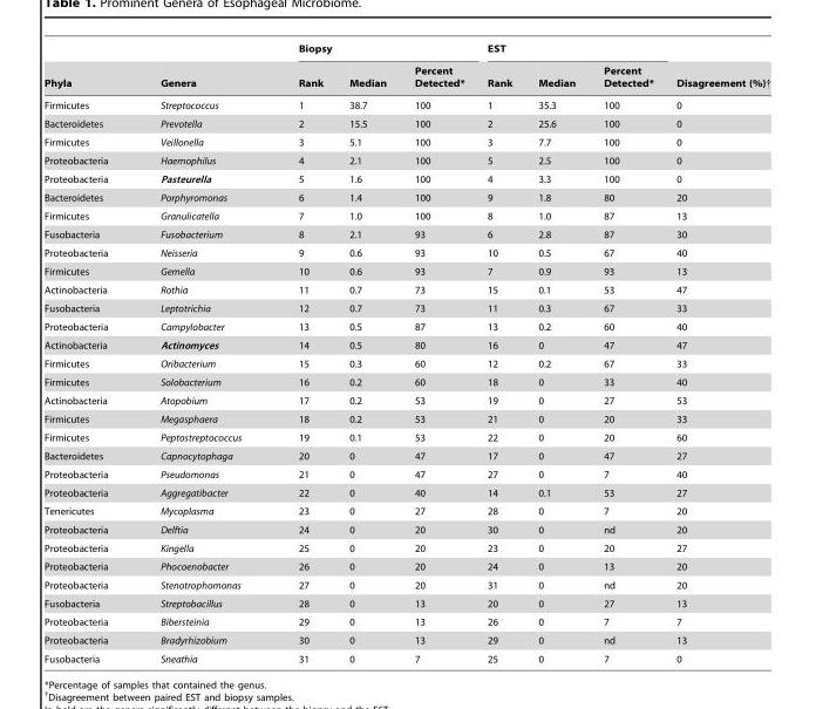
<table><thead><tr><td rowspan="2">Phyla</td><td rowspan="2">Genera</td><td colspan="3">Biopsy</td><td colspan="3">EST</td><td rowspan="2">Disagreement (%)†</td></tr><tr><td>Rank</td><td>Median</td><td>Percent Detected*</td><td>Rank</td><td>Median</td><td>Percent Detected*</td></tr></thead><tbody><tr><td>Firmicutes</td><td>Streptococcus</td><td>1</td><td>38.7</td><td>100</td><td>1</td><td>35.3</td><td>100</td><td>0</td></tr><tr><td>Bacteroidetes</td><td>Prevotella</td><td>2</td><td>15.5</td><td>100</td><td>2</td><td>25.6</td><td>100</td><td>0</td></tr><tr><td>Firmicutes</td><td>Veillonella</td><td>3</td><td>5.1</td><td>100</td><td>3</td><td>7.7</td><td>100</td><td>0</td></tr><tr><td>Proteobacteria</td><td>Haemophilus</td><td>4</td><td>2.1</td><td>100</td><td>5</td><td>2.5</td><td>100</td><td>0</td></tr><tr><td>Proteobacteria</td><td>Pasteurella</td><td>5</td><td>1.6</td><td>100</td><td>4</td><td>3.3</td><td>100</td><td>0</td></tr><tr><td>Bacteroidetes</td><td>Porphyromonas</td><td>6</td><td>1.4</td><td>100</td><td>9</td><td>1.8</td><td>80</td><td>20</td></tr><tr><td>Firmicutes</td><td>Granulicatella</td><td>7</td><td>1.0</td><td>100</td><td>8</td><td>1.0</td><td>87</td><td>13</td></tr><tr><td>Fusobacteria</td><td>Fusobacterium</td><td>8</td><td>2.1</td><td>93</td><td>6</td><td>2.8</td><td>87</td><td>30</td></tr><tr><td>Proteobacteria</td><td>Neisseria</td><td>9</td><td>0.6</td><td>93</td><td>10</td><td>0.5</td><td>67</td><td>40</td></tr><tr><td>Firmicutes</td><td>Gemella</td><td>10</td><td>0.6</td><td>93</td><td>7</td><td>0.9</td><td>93</td><td>13</td></tr><tr><td>Actinobacteria</td><td>Rothia</td><td>11</td><td>0.7</td><td>73</td><td>15</td><td>0.1</td><td>53</td><td>47</td></tr><tr><td>Fusobacteria</td><td>Leptotrichia</td><td>12</td><td>0.7</td><td>73</td><td>11</td><td>0.3</td><td>67</td><td>33</td></tr><tr><td>Proteobacteria</td><td>Campylobacter</td><td>13</td><td>0.5</td><td>87</td><td>13</td><td>0.2</td><td>60</td><td>40</td></tr><tr><td>Actinobacteria</td><td>Actinomyces</td><td>14</td><td>0.5</td><td>80</td><td>16</td><td>0</td><td>47</td><td>47</td></tr><tr><td>Firmicutes</td><td>Oribacterium</td><td>15</td><td>0.3</td><td>60</td><td>12</td><td>0.2</td><td>67</td><td>33</td></tr><tr><td>Firmicutes</td><td>Solobacterium</td><td>16</td><td>0.2</td><td>60</td><td>18</td><td>0</td><td>33</td><td>40</td></tr><tr><td>Actinobacteria</td><td>Atopobium</td><td>17</td><td>0.2</td><td>53</td><td>19</td><td>0</td><td>27</td><td>53</td></tr><tr><td>Firmicutes</td><td>Megasphaera</td><td>18</td><td>0.2</td><td>53</td><td>21</td><td>0</td><td>20</td><td>33</td></tr><tr><td>Firmicutes</td><td>Peptostreptococcus</td><td>19</td><td>0.1</td><td>53</td><td>22</td><td>0</td><td>20</td><td>60</td></tr><tr><td>Bacteroidetes</td><td>Capnocytophaga</td><td>20</td><td>0</td><td>47</td><td>17</td><td>0</td><td>47</td><td>27</td></tr><tr><td>Proteobacteria</td><td>Pseudomonas</td><td>21</td><td>0</td><td>47</td><td>27</td><td>0</td><td>7</td><td>40</td></tr><tr><td>Proteobacteria</td><td>Aggregatibacter</td><td>22</td><td>0</td><td>40</td><td>14</td><td>0.1</td><td>53</td><td>27</td></tr><tr><td>Tenericutes</td><td>Mycoplasma</td><td>23</td><td>0</td><td>27</td><td>28</td><td>0</td><td>7</td><td>20</td></tr><tr><td>Proteobacteria</td><td>Delftia</td><td>24</td><td>0</td><td>20</td><td>30</td><td>0</td><td>nd</td><td>20</td></tr><tr><td>Proteobacteria</td><td>Kingella</td><td>25</td><td>0</td><td>20</td><td>23</td><td>0</td><td>20</td><td>27</td></tr><tr><td>Proteobacteria</td><td>Phocoenobacter</td><td>26</td><td>0</td><td>20</td><td>24</td><td>0</td><td>13</td><td>20</td></tr><tr><td>Proteobacteria</td><td>Stenotrophomonas</td><td>27</td><td>0</td><td>20</td><td>31</td><td>0</td><td>nd</td><td>20</td></tr><tr><td>Fusobacteria</td><td>Streptobacillus</td><td>28</td><td>0</td><td>13</td><td>20</td><td>0</td><td>27</td><td>13</td></tr><tr><td>Proteobacteria</td><td>Bibersteinia</td><td>29</td><td>0</td><td>13</td><td>26</td><td>0</td><td>7</td><td>7</td></tr><tr><td>Proteobacteria</td><td>Bradyrhizobium</td><td>30</td><td>0</td><td>13</td><td>29</td><td>0</td><td>nd</td><td>13</td></tr><tr><td>Fusobacteria</td><td>Sneathia</td><td>31</td><td>0</td><td>7</td><td>25</td><td>0</td><td>7</td><td>0</td></tr></tbody></table>